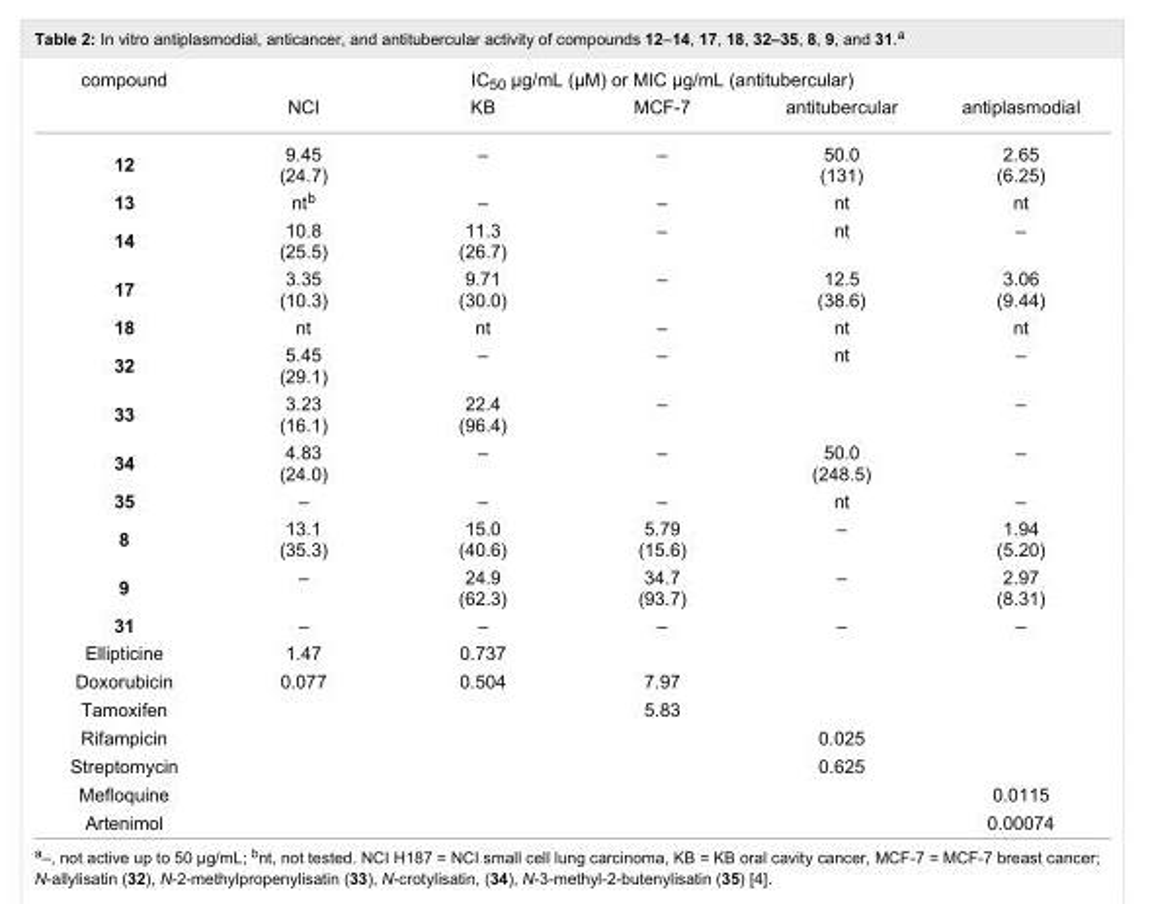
<table><tbody><tr><td rowspan="2">compound</td><td colspan="5">IC<sub>50</sub> µg/mL (µM) or MIC µg/mL (antitubercular)</td></tr><tr><td>NCI</td><td>KB</td><td>MCF-7</td><td>antitubercular</td><td>antiplasmodial</td></tr><tr><td>12</td><td>9.45 (24.7)</td><td>–</td><td>–</td><td>50.0 (131)</td><td>2.65 (6.25)</td></tr><tr><td>13</td><td>nt<sup>b</sup></td><td>–</td><td>–</td><td>nt</td><td>nt</td></tr><tr><td>14</td><td>10.8 (25.5)</td><td>11.3 (26.7)</td><td>–</td><td>nt</td><td>–</td></tr><tr><td>17</td><td>3.35 (10.3)</td><td>9.71 (30.0)</td><td>–</td><td>12.5 (38.6)</td><td>3.06 (9.44)</td></tr><tr><td>18</td><td>nt</td><td>nt</td><td>–</td><td>nt</td><td>nt</td></tr><tr><td>32</td><td>5.45 (29.1)</td><td>–</td><td>–</td><td>nt</td><td>–</td></tr><tr><td>33</td><td>3.23 (16.1)</td><td>22.4 (96.4)</td><td>–</td><td></td><td>–</td></tr><tr><td>34</td><td>4.83 (24.0)</td><td>–</td><td>–</td><td>50.0 (248.5)</td><td>–</td></tr><tr><td>35</td><td>–</td><td>–</td><td>–</td><td>nt</td><td>–</td></tr><tr><td>8</td><td>13.1 (35.3)</td><td>15.0 (40.6)</td><td>5.79 (15.6)</td><td>–</td><td>1.94 (5.20)</td></tr><tr><td>9</td><td>–</td><td>24.9 (62.3)</td><td>34.7 (93.7)</td><td>–</td><td>2.97 (8.31)</td></tr><tr><td>31</td><td>–</td><td>–</td><td>–</td><td>–</td><td>–</td></tr><tr><td>Ellipticine</td><td>1.47</td><td>0.737</td><td></td><td></td><td></td></tr><tr><td>Doxorubicin</td><td>0.077</td><td>0.504</td><td>7.97</td><td></td><td></td></tr><tr><td>Tamoxifen</td><td></td><td></td><td>5.83</td><td></td><td></td></tr><tr><td>Rifampicin</td><td></td><td></td><td></td><td>0.025</td><td></td></tr><tr><td>Streptomycin</td><td></td><td></td><td></td><td>0.625</td><td></td></tr><tr><td>Mefloquine</td><td></td><td></td><td></td><td></td><td>0.0115</td></tr><tr><td>Artenimol</td><td></td><td></td><td></td><td></td><td>0.00074</td></tr></tbody></table>